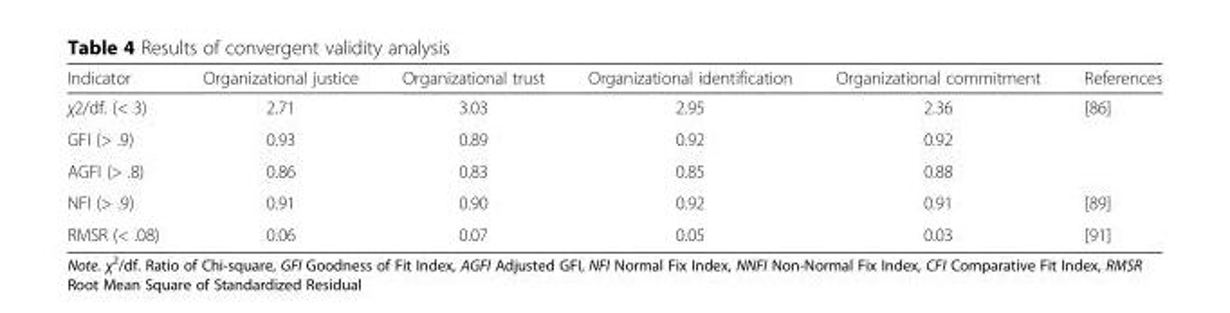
<table><thead><tr><td>Indicator</td><td>Organizational justice</td><td>Organizational trust</td><td>Organizational identification</td><td>Organizational commitment</td><td>References</td></tr></thead><tbody><tr><td>χ2/df. (&lt; 3)</td><td>2.71</td><td>3.03</td><td>2.95</td><td>2.36</td><td rowspan="3">[86]</td></tr><tr><td>GFI (&gt; .9)</td><td>0.93</td><td>0.89</td><td>0.92</td><td>0.92</td></tr><tr><td>AGFI (&gt; .8)</td><td>0.86</td><td>0.83</td><td>0.85</td><td>0.88</td></tr><tr><td>NFI (&gt; .9)</td><td>0.91</td><td>0.90</td><td>0.92</td><td>0.91</td><td>[89]</td></tr><tr><td>RMSR (&lt; .08)</td><td>0.06</td><td>0.07</td><td>0.05</td><td>0.03</td><td>[91]</td></tr></tbody></table>